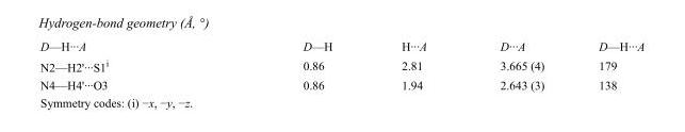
<table><tbody><tr><td>D—H···A</td><td>D—H</td><td>H···A</td><td>D···A</td><td>D—H···A</td></tr><tr><td>N2—H2&#x27;···S1<sup>i</sup></td><td>0.86</td><td>2.81</td><td>3.665 (4)</td><td>179</td></tr><tr><td>N4—H4&#x27;···O3</td><td>0.86</td><td>1.94</td><td>2.643 (3)</td><td>138</td></tr></tbody></table>